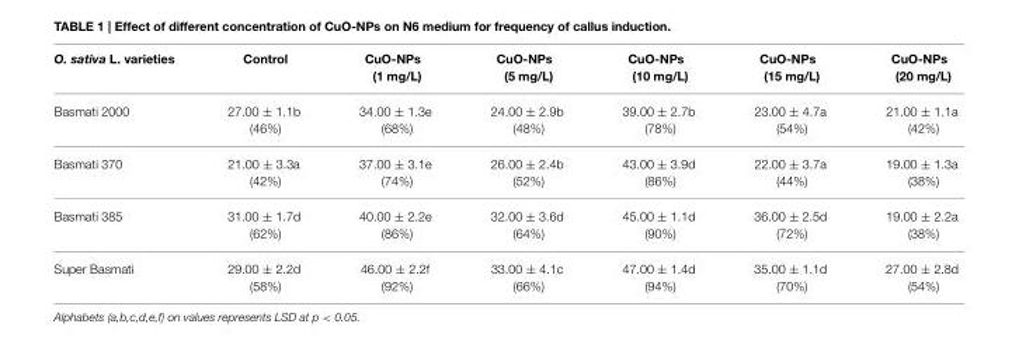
<table><thead><tr><td>O. sativa L. varieties</td><td>Control</td><td>CuO-NPs (1 mg/L)</td><td>CuO-NPs (5 mg/L)</td><td>CuO-NPs (10 mg/L)</td><td>CuO-NPs (15 mg/L)</td><td>CuO-NPs (20 mg/L)</td></tr></thead><tbody><tr><td>Basmati 2000</td><td>27.00 ± 1.1b (46%)</td><td>34.00 ± 1.3e (68%)</td><td>24.00 ± 2.9b (48%)</td><td>39.00 ± 2.7b (78%)</td><td>23.00 ± 4.7a (54%)</td><td>21.00 ± 1.1a (42%)</td></tr><tr><td>Basmati 370</td><td>21.00 ± 3.3a (42%)</td><td>37.00 ± 3.1e (74%)</td><td>26.00 ± 2.4b (52%)</td><td>43.00 ± 3.9d (86%)</td><td>22.00 ± 3.7a (44%)</td><td>19.00 ± 1.3a (38%)</td></tr><tr><td>Basmati 385</td><td>31.00 ± 1.7d (62%)</td><td>40.00 ± 2.2e (86%)</td><td>32.00 ± 3.6d (64%)</td><td>45.00 ± 1.1d (90%)</td><td>36.00 ± 2.5d (72%)</td><td>19.00 ± 2.2a (38%)</td></tr><tr><td>Super Basmati</td><td>29.00 ± 2.2d (58%)</td><td>46.00 ± 2.2f (92%)</td><td>33.00 ± 4.1c (66%)</td><td>47.00 ± 1.4d (94%)</td><td>35.00 ± 1.1d (70%)</td><td>27.00 ± 2.8d (54%)</td></tr></tbody></table>